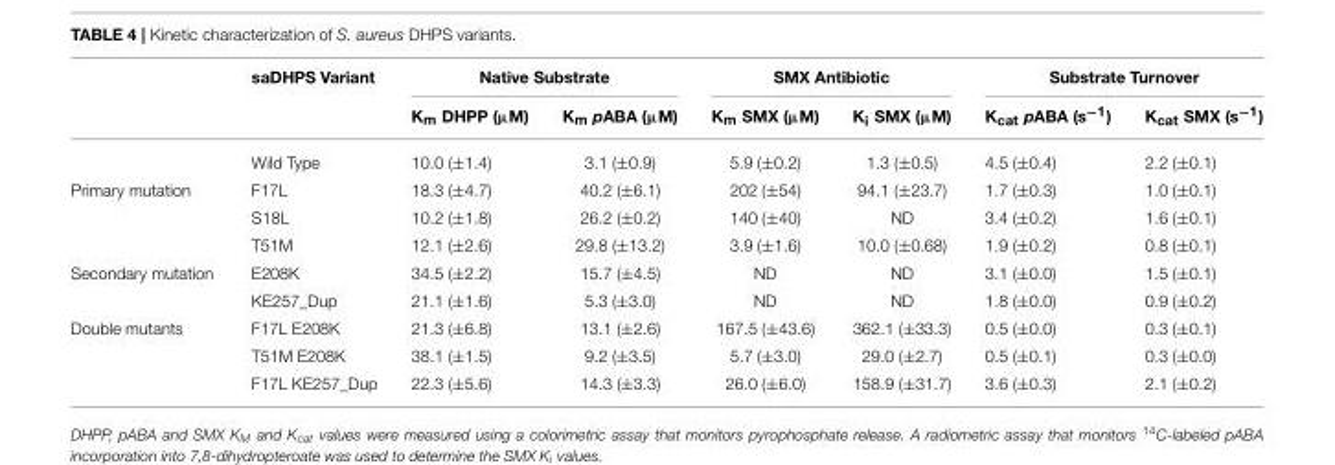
<table><thead><tr><td rowspan="2"></td><td rowspan="2">saDHPS Variant</td><td colspan="2">Native Substrate</td><td colspan="2">SMX Antibiotic</td><td colspan="2">Substrate Turnover</td></tr><tr><td>K<sub>m</sub> DHPP (µM)</td><td>K<sub>m</sub> pABA (µM)</td><td>K<sub>m</sub> SMX (µM)</td><td>K<sub>i</sub> SMX (µM)</td><td>K<sub>cat</sub> pABA (s<sup>−1</sup>)</td><td>K<sub>cat</sub> SMX (s<sup>−1</sup>)</td></tr></thead><tbody><tr><td></td><td>Wild Type</td><td>10.0 (±1.4)</td><td>3.1 (±0.9)</td><td>5.9 (±0.2)</td><td>1.3 (±0.5)</td><td>4.5 (±0.4)</td><td>2.2 (±0.1)</td></tr><tr><td rowspan="3">Primary mutation</td><td>F17L</td><td>18.3 (±4.7)</td><td>40.2 (±6.1)</td><td>202 (±54)</td><td>94.1 (±23.7)</td><td>1.7 (±0.3)</td><td>1.0 (±0.1)</td></tr><tr><td>S18L</td><td>10.2 (±1.8)</td><td>26.2 (±0.2)</td><td>140 (±40)</td><td>ND</td><td>3.4 (±0.2)</td><td>1.6 (±0.1)</td></tr><tr><td>T51M</td><td>12.1 (±2.6)</td><td>29.8 (±13.2)</td><td>3.9 (±1.6)</td><td>10.0 (±0.68)</td><td>1.9 (±0.2)</td><td>0.8 (±0.1)</td></tr><tr><td rowspan="2">Secondary mutation</td><td>E208K</td><td>34.5 (±2.2)</td><td>15.7 (±4.5)</td><td>ND</td><td>ND</td><td>3.1 (±0.0)</td><td>1.5 (±0.1)</td></tr><tr><td>KE257_Dup</td><td>21.1 (±1.6)</td><td>5.3 (±3.0)</td><td>ND</td><td>ND</td><td>1.8 (±0.0)</td><td>0.9 (±0.2)</td></tr><tr><td rowspan="3">Double mutants</td><td>F17L E208K</td><td>21.3 (±6.8)</td><td>13.1 (±2.6)</td><td>167.5 (±43.6)</td><td>362.1 (±33.3)</td><td>0.5 (±0.0)</td><td>0.3 (±0.1)</td></tr><tr><td>T51M E208K</td><td>38.1 (±1.5)</td><td>9.2 (±3.5)</td><td>5.7 (±3.0)</td><td>29.0 (±2.7)</td><td>0.5 (±0.1)</td><td>0.3 (±0.0)</td></tr><tr><td>F17L KE257_Dup</td><td>22.3 (±5.6)</td><td>14.3 (±3.3)</td><td>26.0 (±6.0)</td><td>158.9 (±31.7)</td><td>3.6 (±0.3)</td><td>2.1 (±0.2)</td></tr></tbody></table>